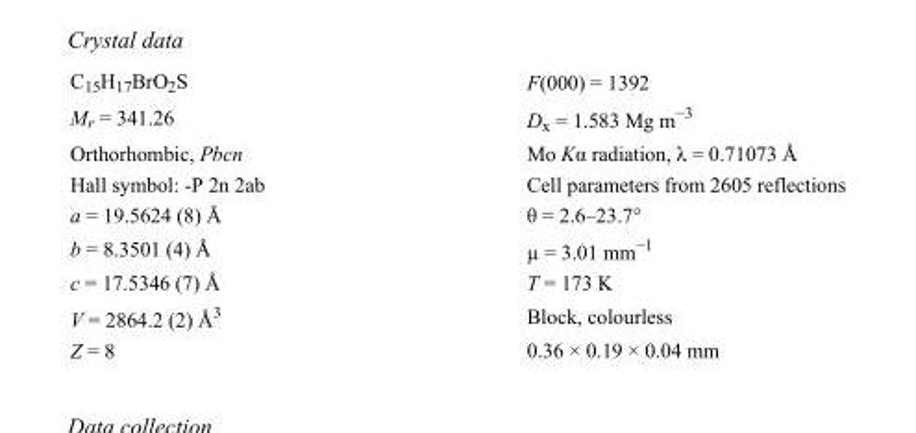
<table><tbody><tr><td>C<sub>15</sub>H<sub>17</sub>BrO<sub>2</sub>S</td><td>F(000) = 1392</td></tr><tr><td>M<sub>r</sub> = 341.26</td><td>D<sub>x</sub> = 1.583 Mg m<sup>−3</sup></td></tr><tr><td>Orthorhombic, Pbcn</td><td>Mo Kα radiation, λ = 0.71073 Å</td></tr><tr><td>Hall symbol: -P 2n 2ab</td><td>Cell parameters from 2605 reflections</td></tr><tr><td>a = 19.5624 (8) Å</td><td>θ = 2.6–23.7°</td></tr><tr><td>b = 8.3501 (4) Å</td><td>µ = 3.01 mm<sup>−1</sup></td></tr><tr><td>c = 17.5346 (7) Å</td><td>T = 173 K</td></tr><tr><td>V = 2864.2 (2) Å<sup>3</sup></td><td>Block, colourless</td></tr><tr><td>Z = 8</td><td>0.36 × 0.19 × 0.04 mm</td></tr></tbody></table>